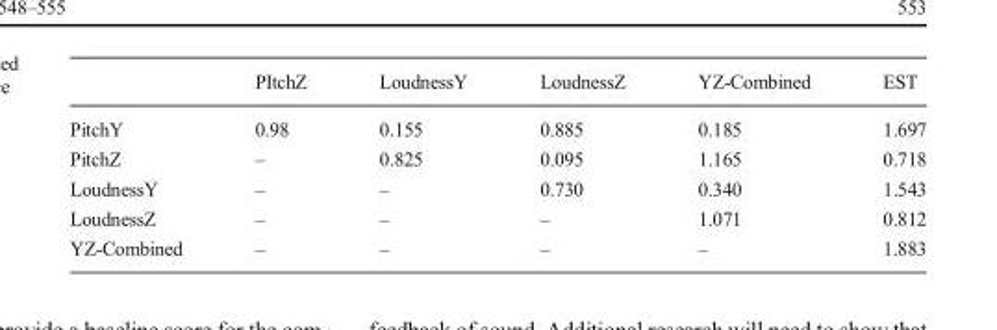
<table><thead><tr><td></td><td>PItchZ</td><td>LoudnessY</td><td>LoudnessZ</td><td>YZ-Combined</td><td>EST</td></tr></thead><tbody><tr><td>PitchY</td><td>0.98</td><td>0.155</td><td>0.885</td><td>0.185</td><td>1.697</td></tr><tr><td>PitchZ</td><td>–</td><td>0.825</td><td>0.095</td><td>1.165</td><td>0.718</td></tr><tr><td>LoudnessY</td><td>–</td><td>–</td><td>0.730</td><td>0.340</td><td>1.543</td></tr><tr><td>LoudnessZ</td><td>–</td><td>–</td><td>–</td><td>1.071</td><td>0.812</td></tr><tr><td>YZ-Combined</td><td>–</td><td>–</td><td>–</td><td>–</td><td>1.883</td></tr></tbody></table>